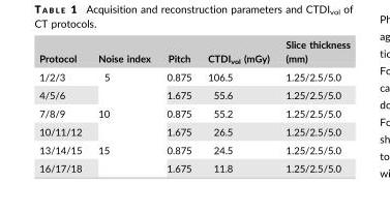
<table><thead><tr><td>Protocol</td><td>Noise index</td><td>Pitch</td><td>CTDI<sub>vol</sub> (mGy)</td><td>Slice thickness (mm)</td></tr></thead><tbody><tr><td>1/2/3</td><td rowspan="2">5</td><td>0.875</td><td>106.5</td><td>1.25/2.5/5.0</td></tr><tr><td>4/5/6</td><td>1.675</td><td>55.6</td><td>1.25/2.5/5.0</td></tr><tr><td>7/8/9</td><td rowspan="2">10</td><td>0.875</td><td>55.2</td><td>1.25/2.5/5.0</td></tr><tr><td>10/11/12</td><td>1.675</td><td>26.5</td><td>1.25/2.5/5.0</td></tr><tr><td>13/14/15</td><td rowspan="2">15</td><td>0.875</td><td>24.5</td><td>1.25/2.5/5.0</td></tr><tr><td>16/17/18</td><td>1.675</td><td>11.8</td><td>1.25/2.5/5.0</td></tr></tbody></table>